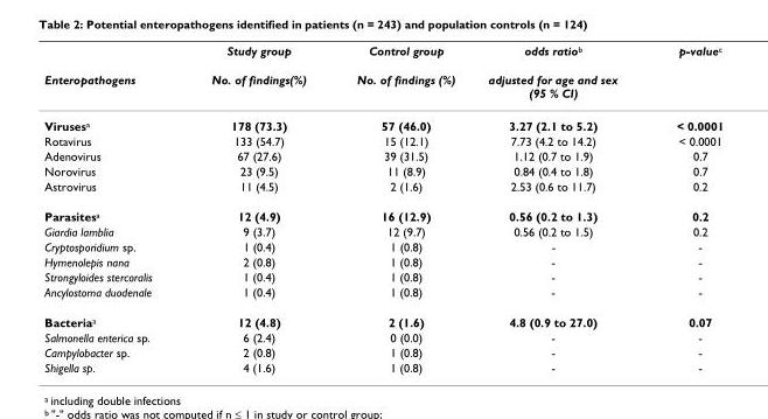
<table><thead><tr><td rowspan="2">Enteropathogens</td><td rowspan="2">Study group No. of findings(%)</td><td rowspan="2">Control group No. of findings (%)</td><td rowspan="2">odds ratio<sup>b</sup> adjusted for age and sex (95 % CI)</td><td rowspan="2">p-value<sup>c</sup></td></tr><tr></tr></thead><tbody><tr><td>Viruses<sup>a</sup></td><td>178 (73.3)</td><td>57 (46.0)</td><td>3.27 (2.1 to 5.2)</td><td>&lt; 0.0001</td></tr><tr><td>Rotavirus</td><td>133 (54.7)</td><td>15 (12.1)</td><td>7.73 (4.2 to 14.2)</td><td>&lt; 0.0001</td></tr><tr><td>Adenovirus</td><td>67 (27.6)</td><td>39 (31.5)</td><td>1.12 (0.7 to 1.9)</td><td>0.7</td></tr><tr><td>Norovirus</td><td>23 (9.5)</td><td>11 (8.9)</td><td>0.84 (0.4 to 1.8)</td><td>0.7</td></tr><tr><td>Astrovirus</td><td>11 (4.5)</td><td>2 (1.6)</td><td>2.53 (0.6 to 11.7)</td><td>0.2</td></tr><tr><td>Parasites<sup>a</sup></td><td>12 (4.9)</td><td>16 (12.9)</td><td>0.56 (0.2 to 1.3)</td><td>0.2</td></tr><tr><td>Giardia lamblia</td><td>9 (3.7)</td><td>12 (9.7)</td><td>0.56 (0.2 to 1.5)</td><td>0.2</td></tr><tr><td>Cryptosporidium sp.</td><td>1 (0.4)</td><td>1 (0.8)</td><td>-</td><td>-</td></tr><tr><td>Hymenolepis nana</td><td>2 (0.8)</td><td>1 (0.8)</td><td>-</td><td>-</td></tr><tr><td>Strongyloides stercoralis</td><td>1 (0.4)</td><td>1 (0.8)</td><td>-</td><td>-</td></tr><tr><td>Ancylostoma duodenale</td><td>1 (0.4)</td><td>1 (0.8)</td><td>-</td><td>-</td></tr><tr><td>Bacteria<sup>a</sup></td><td>12 (4.8)</td><td>2 (1.6)</td><td>4.8 (0.9 to 27.0)</td><td>0.07</td></tr><tr><td>Salmonella enterica sp.</td><td>6 (2.4)</td><td>0 (0.0)</td><td>-</td><td>-</td></tr><tr><td>Campylobacter sp.</td><td>2 (0.8)</td><td>1 (0.8)</td><td>-</td><td>-</td></tr><tr><td>Shigella sp.</td><td>4 (1.6)</td><td>1 (0.8)</td><td>-</td><td>-</td></tr></tbody></table>